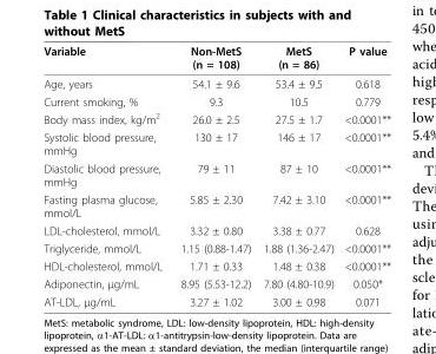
<table><thead><tr><td>Variable</td><td>Non-MetS (n = 108)</td><td>MetS (n = 86)</td><td>P value</td></tr></thead><tbody><tr><td>Age, years</td><td>54.1 ± 9.6</td><td>53.4 ± 9.5</td><td>0.618</td></tr><tr><td>Current smoking, %</td><td>9.3</td><td>10.5</td><td>0.779</td></tr><tr><td>Body mass index, kg/m<sup>2</sup></td><td>26.0 ± 2.5</td><td>27.5 ± 1.7</td><td>&lt;0.0001**</td></tr><tr><td>Systolic blood pressure, mmHg</td><td>130 ± 17</td><td>146 ± 17</td><td>&lt;0.0001**</td></tr><tr><td>Diastolic blood pressure, mmHg</td><td>79 ± 11</td><td>87 ± 10</td><td>&lt;0.0001**</td></tr><tr><td>Fasting plasma glucose, mmol/L</td><td>5.85 ± 2.30</td><td>7.42 ± 3.10</td><td>&lt;0.0001**</td></tr><tr><td>LDL-cholesterol, mmol/L</td><td>3.32 ± 0.80</td><td>3.38 ± 0.77</td><td>0.628</td></tr><tr><td>Triglyceride, mmol/L</td><td>1.15 (0.88-1.47)</td><td>1.88 (1.36-2.47)</td><td>&lt;0.0001**</td></tr><tr><td>HDL-cholesterol, mmol/L</td><td>1.71 ± 0.33</td><td>1.48 ± 0.38</td><td>&lt;0.0001**</td></tr><tr><td>Adiponectin, μg/mL</td><td>8.95 (5.53-12.2)</td><td>7.80 (4.80-10.9)</td><td>0.050*</td></tr><tr><td>AT-LDL, μg/mL</td><td>3.27 ± 1.02</td><td>3.00 ± 0.98</td><td>0.071</td></tr></tbody></table>